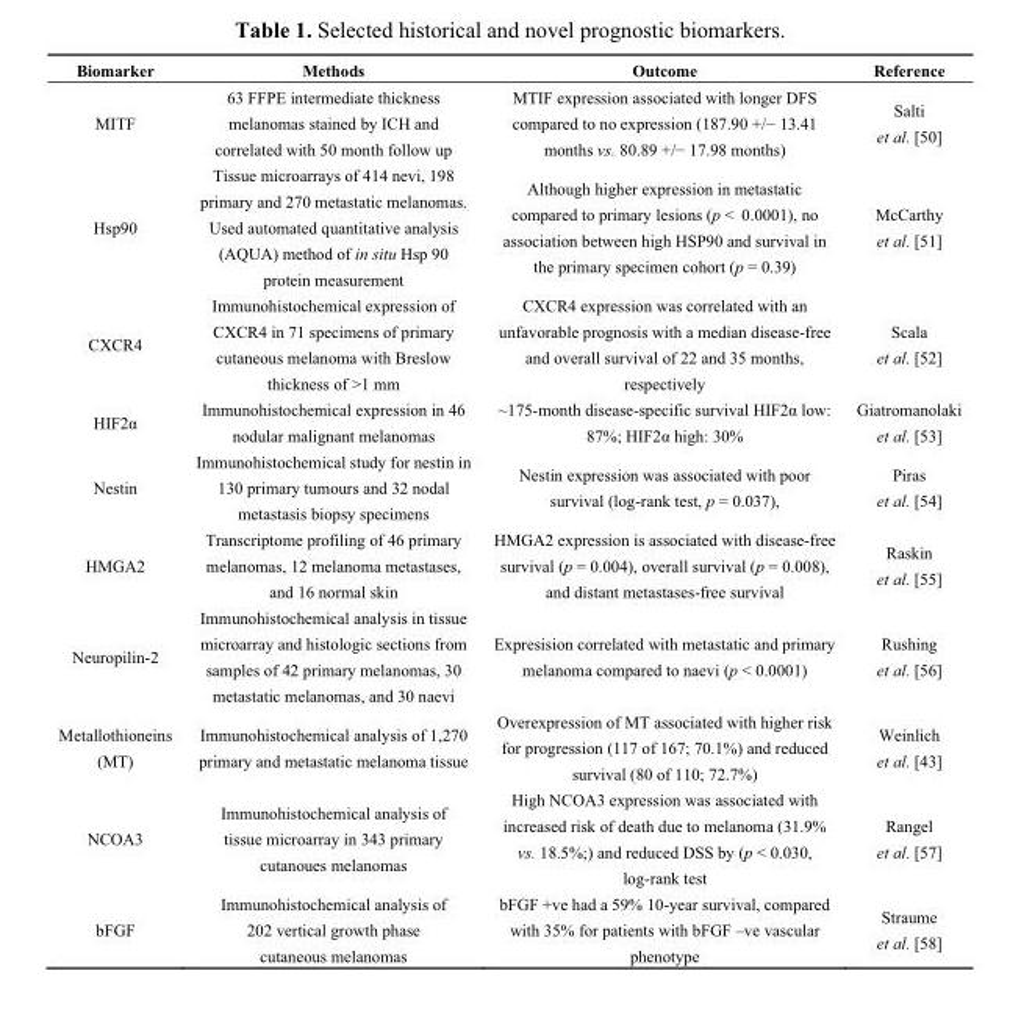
<table><thead><tr><td>Biomarker</td><td>Methods</td><td>Outcome</td><td>Reference</td></tr></thead><tbody><tr><td>MITF</td><td>63 FFPE intermediate thickness melanomas stained by ICH and correlated with 50 month follow up</td><td>MTIF expression associated with longer DFS compared to no expression (187.90 +/− 13.41 months vs. 80.89 +/− 17.98 months)</td><td>Salti et al. [50]</td></tr><tr><td>Hsp90</td><td>Tissue microarrays of 414 nevi, 198 primary and 270 metastatic melanomas. Used automated quantitative analysis (AQUA) method of in situ Hsp 90 protein measurement</td><td>Although higher expression in metastatic compared to primary lesions (p &lt; 0.0001), no association between high HSP90 and survival in the primary specimen cohort (p = 0.39)</td><td>McCarthy et al. [51]</td></tr><tr><td>CXCR4</td><td>Immunohistochemical expression of CXCR4 in 71 specimens of primary cutaneous melanoma with Breslow thickness of &gt;1 mm</td><td>CXCR4 expression was correlated with an unfavorable prognosis with a median disease-free and overall survival of 22 and 35 months, respectively</td><td>Scala et al. [52]</td></tr><tr><td>HIF2α</td><td>Immunohistochemical expression in 46 nodular malignant melanomas</td><td>~175-month disease-specific survival HIF2α low: 87%; HIF2α high: 30%</td><td>Giatromanolaki et al. [53]</td></tr><tr><td>Nestin</td><td>Immunohistochemical study for nestin in 130 primary tumours and 32 nodal metastasis biopsy specimens</td><td>Nestin expression was associated with poor survival (log-rank test, p = 0.037),</td><td>Piras et al. [54]</td></tr><tr><td>HMGA2</td><td>Transcriptome profiling of 46 primary melanomas, 12 melanoma metastases, and 16 normal skin</td><td>HMGA2 expression is associated with disease-free survival (p = 0.004), overall survival (p = 0.008), and distant metastases-free survival</td><td>Raskin et al. [55]</td></tr><tr><td>Neuropilin-2</td><td>Immunohistochemical analysis in tissue microarray and histologic sections from samples of 42 primary melanomas, 30 metastatic melanomas, and 30 naevi</td><td>Expresision correlated with metastatic and primary melanoma compared to naevi (p &lt; 0.0001)</td><td>Rushing et al. [56]</td></tr><tr><td>Metallothioneins (MT)</td><td>Immunohistochemical analysis of 1,270 primary and metastatic melanoma tissue</td><td>Overexpression of MT associated with higher risk for progression (117 of 167; 70.1%) and reduced survival (80 of 110; 72.7%)</td><td>Weinlich et al. [43]</td></tr><tr><td>NCOA3</td><td>Immunohistochemical analysis of tissue microarray in 343 primary cutanoues melanomas</td><td>High NCOA3 expression was associated with increased risk of death due to melanoma (31.9% vs. 18.5%;) and reduced DSS by (p &lt; 0.030, log-rank test</td><td>Rangel et al. [57]</td></tr><tr><td>bFGF</td><td>Immunohistochemical analysis of 202 vertical growth phase cutaneous melanomas</td><td>bFGF +ve had a 59% 10-year survival, compared with 35% for patients with bFGF –ve vascular phenotype</td><td>Straume et al. [58]</td></tr></tbody></table>